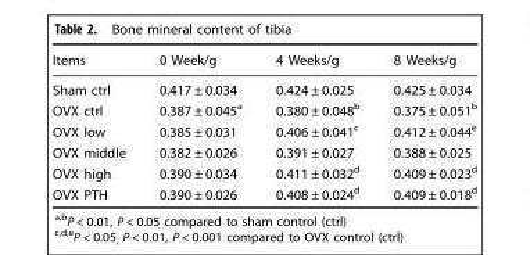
<table><thead><tr><td>Items</td><td>0 Week/g</td><td>4 Weeks/g</td><td>8 Weeks/g</td></tr></thead><tbody><tr><td>Sham ctrl</td><td>0.417 ± 0.034</td><td>0.424 ± 0.025</td><td>0.425 ± 0.034</td></tr><tr><td>OVX ctrl</td><td>0.387 ± 0.045<sup>a</sup></td><td>0.380 ± 0.048<sup>b</sup></td><td>0.375 ± 0.051<sup>b</sup></td></tr><tr><td>OVX low</td><td>0.385 ± 0.031</td><td>0.406 ± 0.041<sup>c</sup></td><td>0.412 ± 0.044<sup>e</sup></td></tr><tr><td>OVX middle</td><td>0.382 ± 0.026</td><td>0.391 ± 0.027</td><td>0.388 ± 0.025</td></tr><tr><td>OVX high</td><td>0.390 ± 0.034</td><td>0.411 ± 0.032<sup>d</sup></td><td>0.409 ± 0.023<sup>d</sup></td></tr><tr><td>OVX PTH</td><td>0.390 ± 0.026</td><td>0.408 ± 0.024<sup>d</sup></td><td>0.409 ± 0.018<sup>d</sup></td></tr></tbody></table>